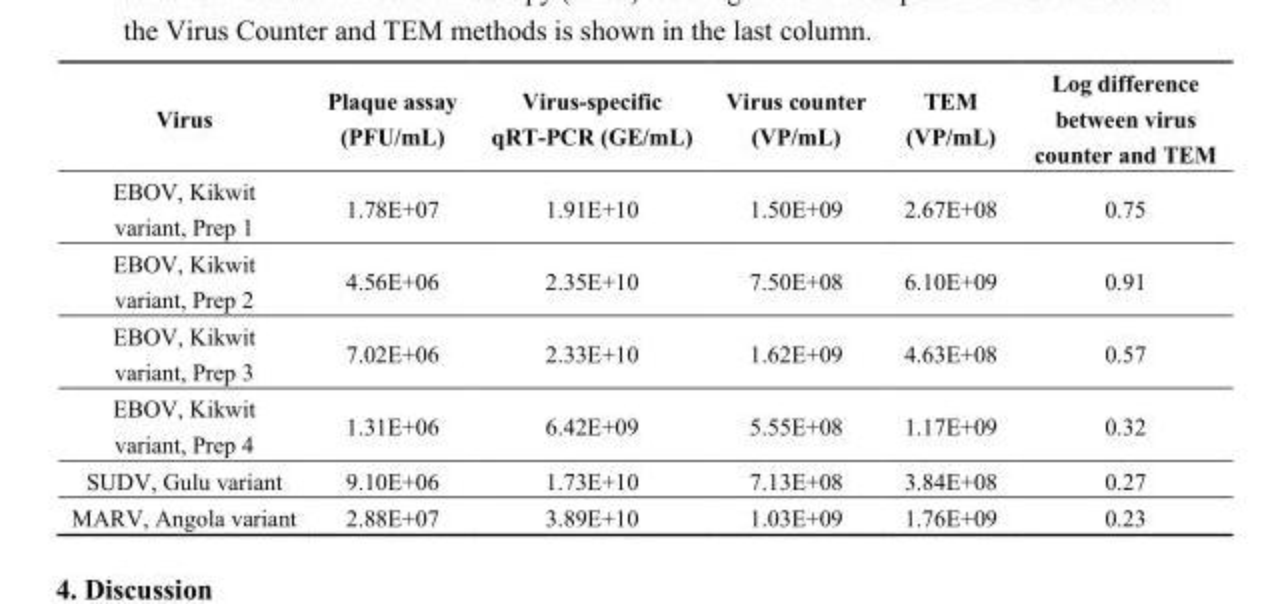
<table><thead><tr><td>Virus</td><td>Plaque assay (PFU/mL)</td><td>Virus-specific qRT-PCR (GE/mL)</td><td>Virus counter (VP/mL)</td><td>TEM (VP/mL)</td><td>Log difference between virus counter and TEM</td></tr></thead><tbody><tr><td>EBOV, Kikwit variant, Prep 1</td><td>1.78E+07</td><td>1.91E+10</td><td>1.50E+09</td><td>2.67E+08</td><td>0.75</td></tr><tr><td>EBOV, Kikwit variant, Prep 2</td><td>4.56E+06</td><td>2.35E+10</td><td>7.50E+08</td><td>6.10E+09</td><td>0.91</td></tr><tr><td>EBOV, Kikwit variant, Prep 3</td><td>7.02E+06</td><td>2.33E+10</td><td>1.62E+09</td><td>4.63E+08</td><td>0.57</td></tr><tr><td>EBOV, Kikwit variant, Prep 4</td><td>1.31E+06</td><td>6.42E+09</td><td>5.55E+08</td><td>1.17E+09</td><td>0.32</td></tr><tr><td>SUDV, Gulu variant</td><td>9.10E+06</td><td>1.73E+10</td><td>7.13E+08</td><td>3.84E+08</td><td>0.27</td></tr><tr><td>MARV, Angola variant</td><td>2.88E+07</td><td>3.89E+10</td><td>1.03E+09</td><td>1.76E+09</td><td>0.23</td></tr></tbody></table>